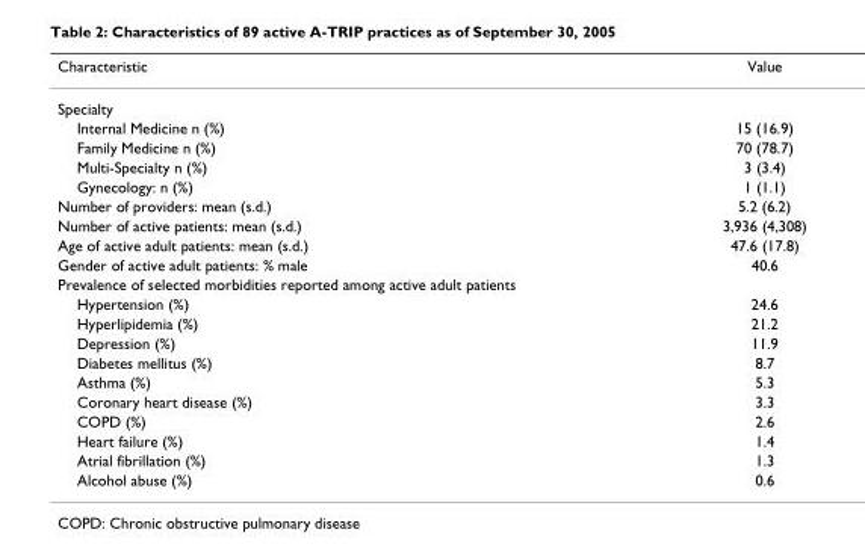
<table><thead><tr><td>Characteristic</td><td>Value</td></tr></thead><tbody><tr><td colspan="2">Specialty</td></tr><tr><td>Internal Medicine n (%)</td><td>15 (16.9)</td></tr><tr><td>Family Medicine n (%)</td><td>70 (78.7)</td></tr><tr><td>Multi-Specialty n (%)</td><td>3 (3.4)</td></tr><tr><td>Gynecology: n (%)</td><td>1 (1.1)</td></tr><tr><td>Number of providers: mean (s.d.)</td><td>5.2 (6.2)</td></tr><tr><td>Number of active patients: mean (s.d.)</td><td>3,936 (4,308)</td></tr><tr><td>Age of active adult patients: mean (s.d.)</td><td>47.6 (17.8)</td></tr><tr><td>Gender of active adult patients: % male</td><td>40.6</td></tr><tr><td colspan="2">Prevalence of selected morbidities reported among active adult patients</td></tr><tr><td>Hypertension (%)</td><td>24.6</td></tr><tr><td>Hyperlipidemia (%)</td><td>21.2</td></tr><tr><td>Depression (%)</td><td>11.9</td></tr><tr><td>Diabetes mellitus (%)</td><td>8.7</td></tr><tr><td>Asthma (%)</td><td>5.3</td></tr><tr><td>Coronary heart disease (%)</td><td>3.3</td></tr><tr><td>COPD (%)</td><td>2.6</td></tr><tr><td>Heart failure (%)</td><td>1.4</td></tr><tr><td>Atrial fibrillation (%)</td><td>1.3</td></tr><tr><td>Alcohol abuse (%)</td><td>0.6</td></tr></tbody></table>